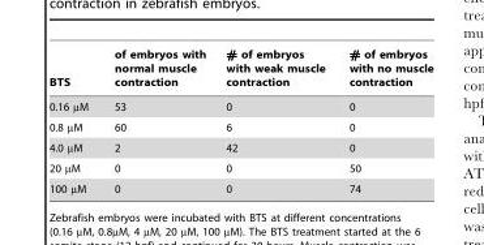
<table><thead><tr><td>BTS</td><td>of embryos with normal muscle contraction</td><td># of embryos with weak muscle contraction</td><td># of embryos with no muscle contraction</td></tr></thead><tbody><tr><td>0.16 µM</td><td>53</td><td>0</td><td>0</td></tr><tr><td>0.8 µM</td><td>60</td><td>6</td><td>0</td></tr><tr><td>4.0 µM</td><td>2</td><td>42</td><td>0</td></tr><tr><td>20 µM</td><td>0</td><td>0</td><td>50</td></tr><tr><td>100 µM</td><td>0</td><td>0</td><td>74</td></tr></tbody></table>